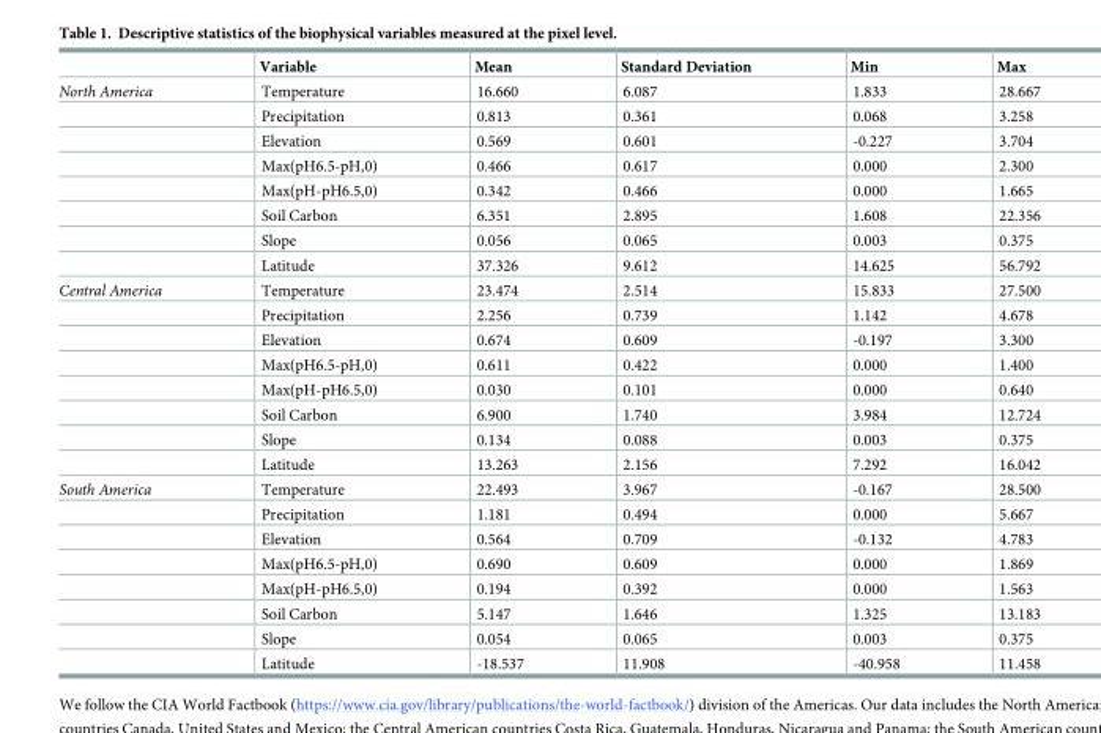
<table><thead><tr><td></td><td>Variable</td><td>Mean</td><td>Standard Deviation</td><td>Min</td><td>Max</td></tr></thead><tbody><tr><td rowspan="8">North America</td><td>Temperature</td><td>16.660</td><td>6.087</td><td>1.833</td><td>28.667</td></tr><tr><td>Precipitation</td><td>0.813</td><td>0.361</td><td>0.068</td><td>3.258</td></tr><tr><td>Elevation</td><td>0.569</td><td>0.601</td><td>-0.227</td><td>3.704</td></tr><tr><td>Max(pH6.5-pH,0)</td><td>0.466</td><td>0.617</td><td>0.000</td><td>2.300</td></tr><tr><td>Max(pH-pH6.5,0)</td><td>0.342</td><td>0.466</td><td>0.000</td><td>1.665</td></tr><tr><td>Soil Carbon</td><td>6.351</td><td>2.895</td><td>1.608</td><td>22.356</td></tr><tr><td>Slope</td><td>0.056</td><td>0.065</td><td>0.003</td><td>0.375</td></tr><tr><td>Latitude</td><td>37.326</td><td>9.612</td><td>14.625</td><td>56.792</td></tr><tr><td rowspan="8">Central America</td><td>Temperature</td><td>23.474</td><td>2.514</td><td>15.833</td><td>27.500</td></tr><tr><td>Precipitation</td><td>2.256</td><td>0.739</td><td>1.142</td><td>4.678</td></tr><tr><td>Elevation</td><td>0.674</td><td>0.609</td><td>-0.197</td><td>3.300</td></tr><tr><td>Max(pH6.5-pH,0)</td><td>0.611</td><td>0.422</td><td>0.000</td><td>1.400</td></tr><tr><td>Max(pH-pH6.5,0)</td><td>0.030</td><td>0.101</td><td>0.000</td><td>0.640</td></tr><tr><td>Soil Carbon</td><td>6.900</td><td>1.740</td><td>3.984</td><td>12.724</td></tr><tr><td>Slope</td><td>0.134</td><td>0.088</td><td>0.003</td><td>0.375</td></tr><tr><td>Latitude</td><td>13.263</td><td>2.156</td><td>7.292</td><td>16.042</td></tr><tr><td rowspan="8">South America</td><td>Temperature</td><td>22.493</td><td>3.967</td><td>-0.167</td><td>28.500</td></tr><tr><td>Precipitation</td><td>1.181</td><td>0.494</td><td>0.000</td><td>5.667</td></tr><tr><td>Elevation</td><td>0.564</td><td>0.709</td><td>-0.132</td><td>4.783</td></tr><tr><td>Max(pH6.5-pH,0)</td><td>0.690</td><td>0.609</td><td>0.000</td><td>1.869</td></tr><tr><td>Max(pH-pH6.5,0)</td><td>0.194</td><td>0.392</td><td>0.000</td><td>1.563</td></tr><tr><td>Soil Carbon</td><td>5.147</td><td>1.646</td><td>1.325</td><td>13.183</td></tr><tr><td>Slope</td><td>0.054</td><td>0.065</td><td>0.003</td><td>0.375</td></tr><tr><td>Latitude</td><td>-18.537</td><td>11.908</td><td>-40.958</td><td>11.458</td></tr></tbody></table>